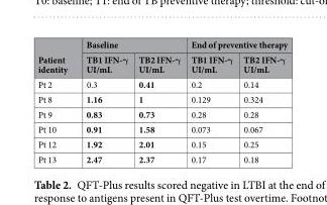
<table><thead><tr><td rowspan="2">Patient identity</td><td colspan="2">Baseline</td><td colspan="2">End of preventive therapy</td></tr><tr><td>TB1 IFN-γ UI/mL</td><td>TB2 IFN-γ UI/mL</td><td>TB1 IFN-γ UI/mL</td><td>TB2 IFN-γ UI/mL</td></tr></thead><tbody><tr><td>Pt 2</td><td>0.3</td><td>0.41</td><td>0.2</td><td>0.14</td></tr><tr><td>Pt 8</td><td>1.16</td><td>1</td><td>0.129</td><td>0.324</td></tr><tr><td>Pt 9</td><td>0.83</td><td>0.73</td><td>0.28</td><td>0.28</td></tr><tr><td>Pt 10</td><td>0.91</td><td>1.58</td><td>0.073</td><td>0.067</td></tr><tr><td>Pt 12</td><td>1.92</td><td>2.01</td><td>0.15</td><td>0.25</td></tr><tr><td>Pt 13</td><td>2.47</td><td>2.37</td><td>0.17</td><td>0.18</td></tr></tbody></table>